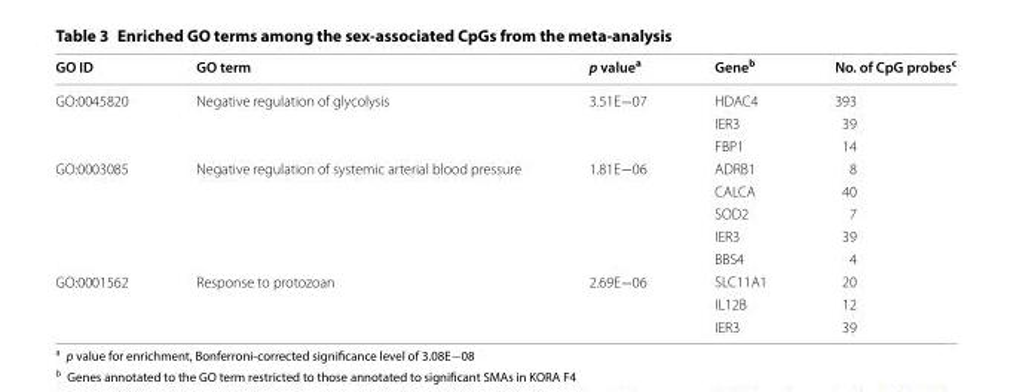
<table><thead><tr><td>GO ID</td><td>GO term</td><td>p value<sup>a</sup></td><td>Gene<sup>b</sup></td><td>No. of CpG probes<sup>c</sup></td></tr></thead><tbody><tr><td rowspan="3">GO:0045820</td><td rowspan="3">Negative regulation of glycolysis</td><td rowspan="3">3.51E−07</td><td>HDAC4</td><td>393</td></tr><tr><td>IER3</td><td>39</td></tr><tr><td>FBP1</td><td>14</td></tr><tr><td rowspan="5">GO:0003085</td><td rowspan="5">Negative regulation of systemic arterial blood pressure</td><td rowspan="5">1.81E−06</td><td>ADRB1</td><td>8</td></tr><tr><td>CALCA</td><td>40</td></tr><tr><td>SOD2</td><td>7</td></tr><tr><td>IER3</td><td>39</td></tr><tr><td>BBS4</td><td>4</td></tr><tr><td rowspan="3">GO:0001562</td><td rowspan="3">Response to protozoan</td><td rowspan="3">2.69E−06</td><td>SLC11A1</td><td>20</td></tr><tr><td>IL12B</td><td>12</td></tr><tr><td>IER3</td><td>39</td></tr></tbody></table>